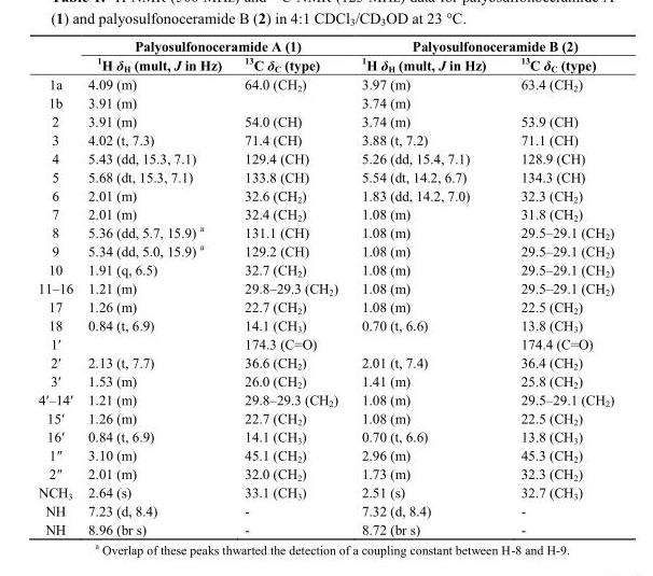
<table><thead><tr><td rowspan="2"></td><td colspan="2">Palyosulfonoceramide A (1)</td><td colspan="2">Palyosulfonoceramide B (2)</td></tr><tr><td><sup>1</sup>H δ<sub>H</sub> (mult, J in Hz)</td><td><sup>13</sup>C δ<sub>C</sub> (type)</td><td><sup>1</sup>H δ<sub>H</sub> (mult, J in Hz)</td><td><sup>13</sup>C δ<sub>C</sub> (type)</td></tr></thead><tbody><tr><td>1a</td><td>4.09 (m)</td><td rowspan="2">64.0 (CH<sub>2</sub>)</td><td>3.97 (m)</td><td rowspan="2">63.4 (CH<sub>2</sub>)</td></tr><tr><td>1b</td><td>3.91 (m)</td><td>3.74 (m)</td></tr><tr><td>2</td><td>3.91 (m)</td><td>54.0 (CH)</td><td>3.74 (m)</td><td>53.9 (CH)</td></tr><tr><td>3</td><td>4.02 (t, 7.3)</td><td>71.4 (CH)</td><td>3.88 (t, 7.2)</td><td>71.1 (CH)</td></tr><tr><td>4</td><td>5.43 (dd, 15.3, 7.1)</td><td>129.4 (CH)</td><td>5.26 (dd, 15.4, 7.1)</td><td>128.9 (CH)</td></tr><tr><td>5</td><td>5.68 (dt, 15.3, 7.1)</td><td>133.8 (CH)</td><td>5.54 (dt, 14.2, 6.7)</td><td>134.3 (CH)</td></tr><tr><td>6</td><td>2.01 (m)</td><td>32.6 (CH<sub>2</sub>)</td><td>1.83 (dd, 14.2, 7.0)</td><td>32.3 (CH<sub>2</sub>)</td></tr><tr><td>7</td><td>2.01 (m)</td><td>32.4 (CH<sub>2</sub>)</td><td>1.08 (m)</td><td>31.8 (CH<sub>2</sub>)</td></tr><tr><td>8</td><td>5.36 (dd, 5.7, 15.9) <sup>a</sup></td><td>131.1 (CH)</td><td>1.08 (m)</td><td>29.5–29.1 (CH<sub>2</sub>)</td></tr><tr><td>9</td><td>5.34 (dd, 5.0, 15.9) <sup>a</sup></td><td>129.2 (CH)</td><td>1.08 (m)</td><td>29.5–29.1 (CH<sub>2</sub>)</td></tr><tr><td>10</td><td>1.91 (q, 6.5)</td><td>32.7 (CH<sub>2</sub>)</td><td>1.08 (m)</td><td>29.5–29.1 (CH<sub>2</sub>)</td></tr><tr><td>11–16</td><td>1.21 (m)</td><td>29.8–29.3 (CH<sub>2</sub>)</td><td>1.08 (m)</td><td>29.5–29.1 (CH<sub>2</sub>)</td></tr><tr><td>17</td><td>1.26 (m)</td><td>22.7 (CH<sub>2</sub>)</td><td>1.08 (m)</td><td>22.5 (CH<sub>2</sub>)</td></tr><tr><td>18</td><td>0.84 (t, 6.9)</td><td>14.1 (CH<sub>3</sub>)</td><td>0.70 (t, 6.6)</td><td>13.8 (CH<sub>3</sub>)</td></tr><tr><td>1′</td><td></td><td>174.3 (C=O)</td><td></td><td>174.4 (C=O)</td></tr><tr><td>2′</td><td>2.13 (t, 7.7)</td><td>36.6 (CH<sub>2</sub>)</td><td>2.01 (t, 7.4)</td><td>36.4 (CH<sub>2</sub>)</td></tr><tr><td>3′</td><td>1.53 (m)</td><td>26.0 (CH<sub>2</sub>)</td><td>1.41 (m)</td><td>25.8 (CH<sub>2</sub>)</td></tr><tr><td>4′–14′</td><td>1.21 (m)</td><td>29.8–29.3 (CH<sub>2</sub>)</td><td>1.08 (m)</td><td>29.5–29.1 (CH<sub>2</sub>)</td></tr><tr><td>15′</td><td>1.26 (m)</td><td>22.7 (CH<sub>2</sub>)</td><td>1.08 (m)</td><td>22.5 (CH<sub>2</sub>)</td></tr><tr><td>16′</td><td>0.84 (t, 6.9)</td><td>14.1 (CH<sub>3</sub>)</td><td>0.70 (t, 6.6)</td><td>13.8 (CH<sub>3</sub>)</td></tr><tr><td>1″</td><td>3.10 (m)</td><td>45.1 (CH<sub>2</sub>)</td><td>2.96 (m)</td><td>45.3 (CH<sub>2</sub>)</td></tr><tr><td>2″</td><td>2.01 (m)</td><td>32.0 (CH<sub>2</sub>)</td><td>1.73 (m)</td><td>32.3 (CH<sub>2</sub>)</td></tr><tr><td>NCH<sub>3</sub></td><td>2.64 (s)</td><td>33.1 (CH<sub>3</sub>)</td><td>2.51 (s)</td><td>32.7 (CH<sub>3</sub>)</td></tr><tr><td>NH</td><td>7.23 (d, 8.4)</td><td>-</td><td>7.32 (d, 8.4)</td><td>-</td></tr><tr><td>NH</td><td>8.96 (br s)</td><td>-</td><td>8.72 (br s)</td><td>-</td></tr></tbody></table>